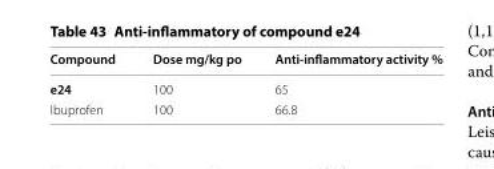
<table><thead><tr><td>Compound</td><td>Dose mg/kg po</td><td>Anti-inflammatory activity %</td></tr></thead><tbody><tr><td>e24</td><td>100</td><td>65</td></tr><tr><td>Ibuprofen</td><td>100</td><td>66.8</td></tr></tbody></table>